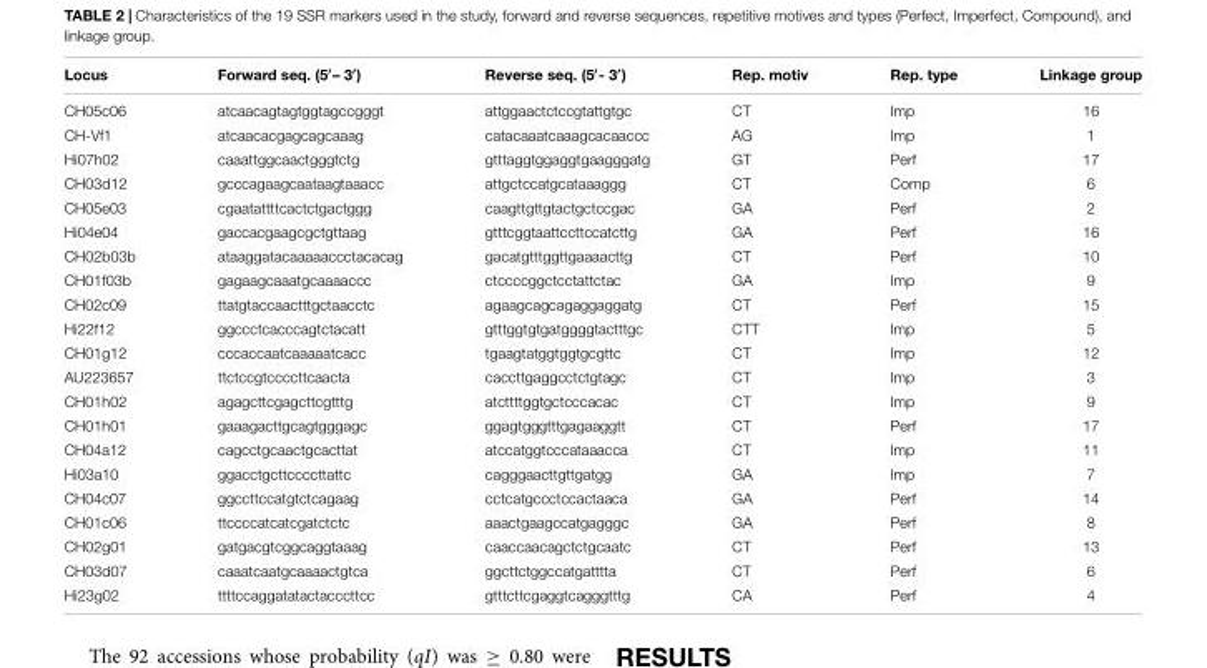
<table><thead><tr><td>Locus</td><td>Forward seq. (5′– 3′)</td><td>Reverse seq. (5′- 3′)</td><td>Rep. motiv</td><td>Rep. type</td><td>Linkage group</td></tr></thead><tbody><tr><td>CH05c06</td><td>atcaacagtagtggtagccgggt</td><td>attggaactctccgtattgtgc</td><td>CT</td><td>Imp</td><td>16</td></tr><tr><td>CH-Vf1</td><td>atcaacacgagcagcaaag</td><td>catacaaatcaaagcacaaccc</td><td>AG</td><td>Imp</td><td>1</td></tr><tr><td>Hi07h02</td><td>caaattggcaactgggtctg</td><td>gtttaggtggaggtgaagggatg</td><td>GT</td><td>Perf</td><td>17</td></tr><tr><td>CH03d12</td><td>gcccagaagcaataagtaaacc</td><td>attgctccatgcataaaggg</td><td>CT</td><td>Comp</td><td>6</td></tr><tr><td>CH05e03</td><td>cgaatattttcactctgactggg</td><td>caagttgttgtactgctccgac</td><td>GA</td><td>Perf</td><td>2</td></tr><tr><td>Hi04e04</td><td>gaccacgaagcgctgttaag</td><td>gtttcggtaattccttccatcttg</td><td>GA</td><td>Perf</td><td>16</td></tr><tr><td>CH02b03b</td><td>ataaggatacaaaaaccctacacag</td><td>gacatgtttggttgaaaacttg</td><td>CT</td><td>Perf</td><td>10</td></tr><tr><td>CH01f03b</td><td>gagaagcaaatgcaaaaccc</td><td>ctccccggctcctattctac</td><td>GA</td><td>Imp</td><td>9</td></tr><tr><td>CH02c09</td><td>ttatgtaccaactttgctaacctc</td><td>agaagcagcagaggaggatg</td><td>CT</td><td>Perf</td><td>15</td></tr><tr><td>Hi22f12</td><td>ggccctcacccagtctacatt</td><td>gtttggtgtgatggggtactttgc</td><td>CTT</td><td>Imp</td><td>5</td></tr><tr><td>CH01g12</td><td>cccaccaatcaaaaatcacc</td><td>tgaagtatggtggtgcgttc</td><td>CT</td><td>Imp</td><td>12</td></tr><tr><td>AU223657</td><td>ttctccgtccccttcaacta</td><td>caccttgaggcctctgtagc</td><td>CT</td><td>Imp</td><td>3</td></tr><tr><td>CH01h02</td><td>agagcttcgagcttcgtttg</td><td>atcttttggtgctcccacac</td><td>CT</td><td>Imp</td><td>9</td></tr><tr><td>CH01h01</td><td>gaaagacttgcagtgggagc</td><td>ggagtgggtttgagaaggtt</td><td>CT</td><td>Perf</td><td>17</td></tr><tr><td>CH04a12</td><td>cagcctgcaactgcacttat</td><td>atccatggtcccataaacca</td><td>CT</td><td>Imp</td><td>11</td></tr><tr><td>Hi03a10</td><td>ggacctgcttccccttattc</td><td>cagggaacttgttgatgg</td><td>GA</td><td>Imp</td><td>7</td></tr><tr><td>CH04c07</td><td>ggccttccatgtctcagaag</td><td>cctcatgccctccactaaca</td><td>GA</td><td>Perf</td><td>14</td></tr><tr><td>CH01c06</td><td>ttccccatcatcgatctctc</td><td>aaactgaagccatgagggc</td><td>GA</td><td>Perf</td><td>8</td></tr><tr><td>CH02g01</td><td>gatgacgtcggcaggtaaag</td><td>caaccaacagctctgcaatc</td><td>CT</td><td>Perf</td><td>13</td></tr><tr><td>CH03d07</td><td>caaatcaatgcaaaactgtca</td><td>ggcttctggccatgatttta</td><td>CT</td><td>Perf</td><td>6</td></tr><tr><td>Hi23g02</td><td>ttttccaggatatactacccttcc</td><td>gtttcttcgaggtcagggtttg</td><td>CA</td><td>Perf</td><td>4</td></tr></tbody></table>